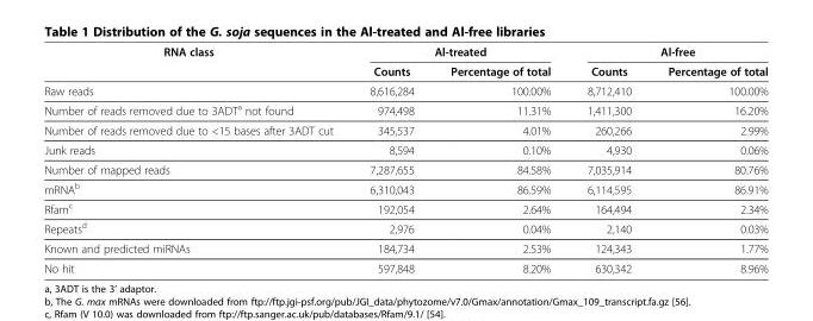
<table><thead><tr><td rowspan="2">RNA class</td><td colspan="2">Al-treated</td><td colspan="2">Al-free</td></tr><tr><td>Counts</td><td>Percentage of total</td><td>Counts</td><td>Percentage of total</td></tr></thead><tbody><tr><td>Raw reads</td><td>8,616,284</td><td>100.00%</td><td>8,712,410</td><td>100.00%</td></tr><tr><td>Number of reads removed due to 3ADT<sup>a</sup> not found</td><td>974,498</td><td>11.31%</td><td>1,411,300</td><td>16.20%</td></tr><tr><td>Number of reads removed due to &lt;15 bases after 3ADT cut</td><td>345,537</td><td>4.01%</td><td>260,266</td><td>2.99%</td></tr><tr><td>Junk reads</td><td>8,594</td><td>0.10%</td><td>4,930</td><td>0.06%</td></tr><tr><td>Number of mapped reads</td><td>7,287,655</td><td>84.58%</td><td>7,035,914</td><td>80.76%</td></tr><tr><td>mRNA<sup>b</sup></td><td>6,310,043</td><td>86.59%</td><td>6,114,595</td><td>86.91%</td></tr><tr><td>Rfam<sup>c</sup></td><td>192,054</td><td>2.64%</td><td>164,494</td><td>2.34%</td></tr><tr><td>Repeats<sup>d</sup></td><td>2,976</td><td>0.04%</td><td>2,140</td><td>0.03%</td></tr><tr><td>Known and predicted miRNAs</td><td>184,734</td><td>2.53%</td><td>124,343</td><td>1.77%</td></tr><tr><td>No hit</td><td>597,848</td><td>8.20%</td><td>630,342</td><td>8.96%</td></tr></tbody></table>